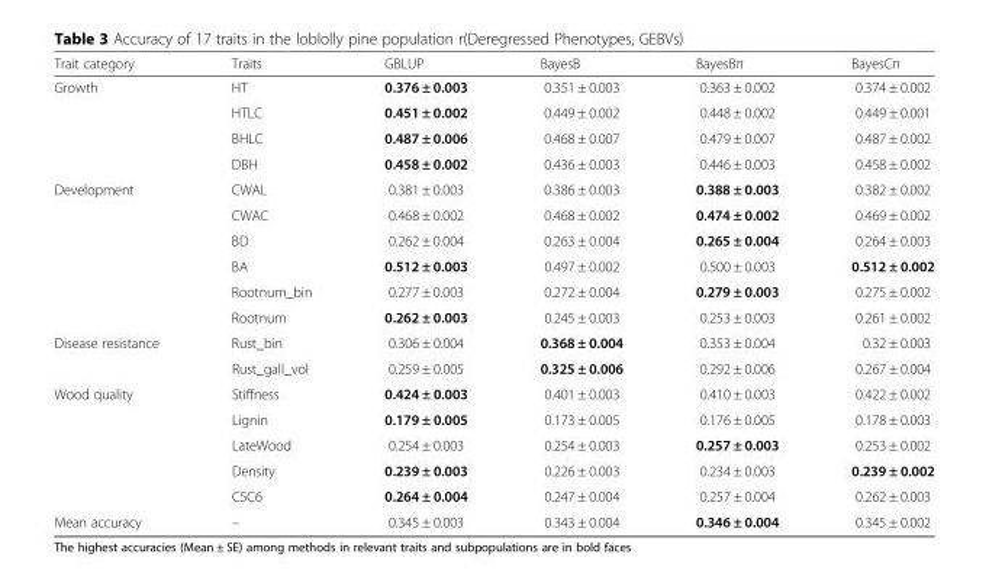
<table><thead><tr><td>Trait category</td><td>Traits</td><td>GBLUP</td><td>BayesB</td><td>BayesBπ</td><td>BayesCπ</td></tr></thead><tbody><tr><td rowspan="4">Growth</td><td>HT</td><td>0.376 ± 0.003</td><td>0.351 ± 0.003</td><td>0.363 ± 0.002</td><td>0.374 ± 0.002</td></tr><tr><td>HTLC</td><td>0.451 ± 0.002</td><td>0.449 ± 0.002</td><td>0.448 ± 0.002</td><td>0.449 ± 0.001</td></tr><tr><td>BHLC</td><td>0.487 ± 0.006</td><td>0.468 ± 0.007</td><td>0.479 ± 0.007</td><td>0.487 ± 0.002</td></tr><tr><td>DBH</td><td>0.458 ± 0.002</td><td>0.436 ± 0.003</td><td>0.446 ± 0.003</td><td>0.458 ± 0.002</td></tr><tr><td rowspan="6">Development</td><td>CWAL</td><td>0.381 ± 0.003</td><td>0.386 ± 0.003</td><td>0.388 ± 0.003</td><td>0.382 ± 0.002</td></tr><tr><td>CWAC</td><td>0.468 ± 0.002</td><td>0.468 ± 0.002</td><td>0.474 ± 0.002</td><td>0.469 ± 0.002</td></tr><tr><td>BD</td><td>0.262 ± 0.004</td><td>0.263 ± 0.004</td><td>0.265 ± 0.004</td><td>0.264 ± 0.003</td></tr><tr><td>BA</td><td>0.512 ± 0.003</td><td>0.497 ± 0.002</td><td>0.500 ± 0.003</td><td>0.512 ± 0.002</td></tr><tr><td>Rootnum_bin</td><td>0.277 ± 0.003</td><td>0.272 ± 0.004</td><td>0.279 ± 0.003</td><td>0.275 ± 0.002</td></tr><tr><td>Rootnum</td><td>0.262 ± 0.003</td><td>0.245 ± 0.003</td><td>0.253 ± 0.003</td><td>0.261 ± 0.002</td></tr><tr><td rowspan="2">Disease resistance</td><td>Rust_bin</td><td>0.306 ± 0.004</td><td>0.368 ± 0.004</td><td>0.353 ± 0.004</td><td>0.32 ± 0.003</td></tr><tr><td>Rust_gall_vol</td><td>0.259 ± 0.005</td><td>0.325 ± 0.006</td><td>0.292 ± 0.006</td><td>0.267 ± 0.004</td></tr><tr><td rowspan="5">Wood quality</td><td>Stiffness</td><td>0.424 ± 0.003</td><td>0.401 ± 0.003</td><td>0.410 ± 0.003</td><td>0.422 ± 0.002</td></tr><tr><td>Lignin</td><td>0.179 ± 0.005</td><td>0.173 ± 0.005</td><td>0.176 ± 0.005</td><td>0.178 ± 0.003</td></tr><tr><td>LateWood</td><td>0.254 ± 0.003</td><td>0.254 ± 0.003</td><td>0.257 ± 0.003</td><td>0.253 ± 0.002</td></tr><tr><td>Density</td><td>0.239 ± 0.003</td><td>0.226 ± 0.003</td><td>0.234 ± 0.003</td><td>0.239 ± 0.002</td></tr><tr><td>C5C6</td><td>0.264 ± 0.004</td><td>0.247 ± 0.004</td><td>0.257 ± 0.004</td><td>0.262 ± 0.003</td></tr><tr><td>Mean accuracy</td><td>–</td><td>0.345 ± 0.003</td><td>0.343 ± 0.004</td><td>0.346 ± 0.004</td><td>0.345 ± 0.002</td></tr></tbody></table>